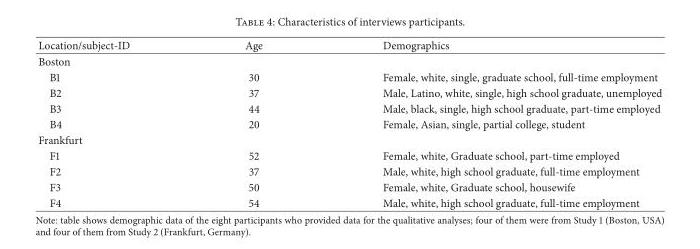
<table><thead><tr><td>Location/subject-ID</td><td>Age</td><td>Demographics</td></tr></thead><tbody><tr><td colspan="3">Boston</td></tr><tr><td>B1</td><td>30</td><td>Female, white, single, graduate school, full-time employment</td></tr><tr><td>B2</td><td>37</td><td>Male, Latino, white, single, high school graduate, unemployed</td></tr><tr><td>B3</td><td>44</td><td>Male, black, single, high school graduate, part-time employed</td></tr><tr><td>B4</td><td>20</td><td>Female, Asian, single, partial college, student</td></tr><tr><td colspan="3">Frankfurt</td></tr><tr><td>F1</td><td>52</td><td>Female, white, Graduate school, part-time employed</td></tr><tr><td>F2</td><td>37</td><td>Male, white, high school graduate, full-time employment</td></tr><tr><td>F3</td><td>50</td><td>Female, white, Graduate school, housewife</td></tr><tr><td>F4</td><td>54</td><td>Male, white, high school graduate, full-time employment</td></tr></tbody></table>